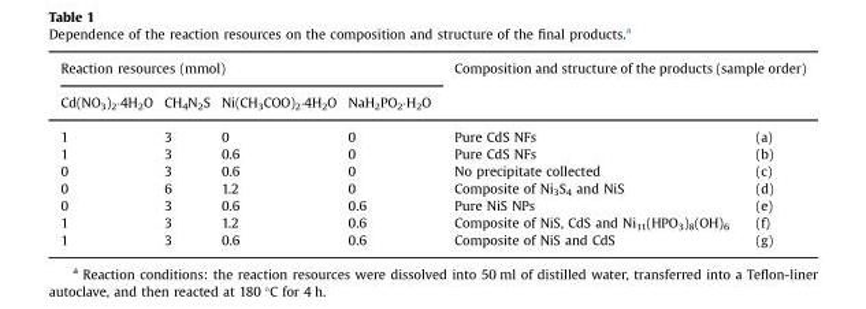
<table><thead><tr><td colspan="4">Reaction resources (mmol)</td><td rowspan="2" colspan="2">Composition and structure of the products (sample order)</td></tr><tr><td rowspan="2">Cd(NO<sub>3</sub>)<sub>2</sub>·4H<sub>2</sub>O 1</td><td rowspan="2">CH<sub>4</sub>N<sub>2</sub>S 3</td><td rowspan="2">Ni(CH<sub>3</sub>COO)<sub>2</sub>·4H<sub>2</sub>O 0</td><td rowspan="2">NaH<sub>2</sub>PO<sub>2</sub>·H<sub>2</sub>O 0</td></tr><tr><td>Pure CdS NFs</td><td>(a)</td></tr></thead><tbody><tr><td>1</td><td>3</td><td>0.6</td><td>0</td><td>Pure CdS NFs</td><td>(b)</td></tr><tr><td>0</td><td>3</td><td>0.6</td><td>0</td><td>No precipitate collected</td><td>(c)</td></tr><tr><td>0</td><td>6</td><td>1.2</td><td>0</td><td>Composite of Ni<sub>3</sub>S<sub>4</sub> and NiS</td><td>(d)</td></tr><tr><td>0</td><td>3</td><td>0.6</td><td>0.6</td><td>Pure NiS NPs</td><td>(e)</td></tr><tr><td>1</td><td>3</td><td>1.2</td><td>0.6</td><td>Composite of NiS, CdS and Ni<sub>11</sub>(HPO<sub>3</sub>)<sub>8</sub>(OH)<sub>6</sub></td><td>(f)</td></tr><tr><td>1</td><td>3</td><td>0.6</td><td>0.6</td><td>Composite of NiS and CdS</td><td>(g)</td></tr></tbody></table>